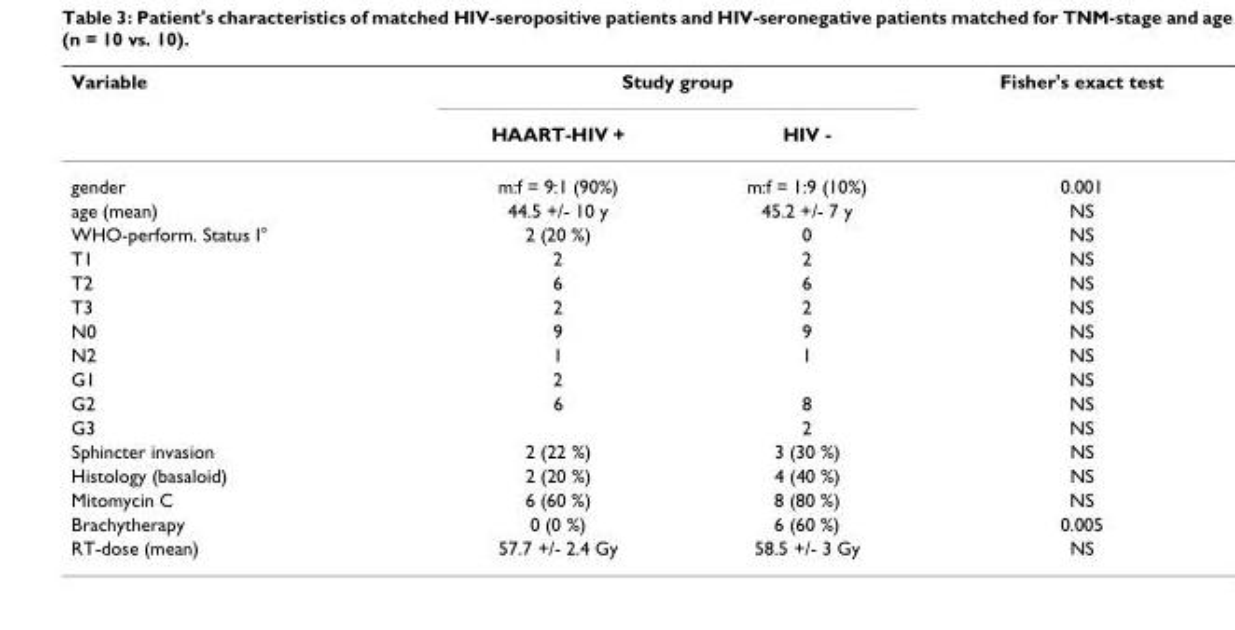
<table><thead><tr><td rowspan="2">Variable</td><td colspan="2">Study group</td><td rowspan="2">Fisher&#x27;s exact test</td></tr><tr><td>HAART-HIV +</td><td>HIV -</td></tr></thead><tbody><tr><td>gender</td><td>m:f = 9:1 (90%)</td><td>m:f = 1:9 (10%)</td><td>0.001</td></tr><tr><td>age (mean)</td><td>44.5 +/- 10 y</td><td>45.2 +/- 7 y</td><td>NS</td></tr><tr><td>WHO-perform. Status I°</td><td>2 (20 %)</td><td>0</td><td>NS</td></tr><tr><td>T1</td><td>2</td><td>2</td><td>NS</td></tr><tr><td>T2</td><td>6</td><td>6</td><td>NS</td></tr><tr><td>T3</td><td>2</td><td>2</td><td>NS</td></tr><tr><td>N0</td><td>9</td><td>9</td><td>NS</td></tr><tr><td>N2</td><td>1</td><td>1</td><td>NS</td></tr><tr><td>G1</td><td>2</td><td></td><td>NS</td></tr><tr><td>G2</td><td>6</td><td>8</td><td>NS</td></tr><tr><td>G3</td><td></td><td>2</td><td>NS</td></tr><tr><td>Sphincter invasion</td><td>2 (22 %)</td><td>3 (30 %)</td><td>NS</td></tr><tr><td>Histology (basaloid)</td><td>2 (20 %)</td><td>4 (40 %)</td><td>NS</td></tr><tr><td>Mitomycin C</td><td>6 (60 %)</td><td>8 (80 %)</td><td>NS</td></tr><tr><td>Brachytherapy</td><td>0 (0 %)</td><td>6 (60 %)</td><td>0.005</td></tr><tr><td>RT-dose (mean)</td><td>57.7 +/- 2.4 Gy</td><td>58.5 +/- 3 Gy</td><td>NS</td></tr></tbody></table>